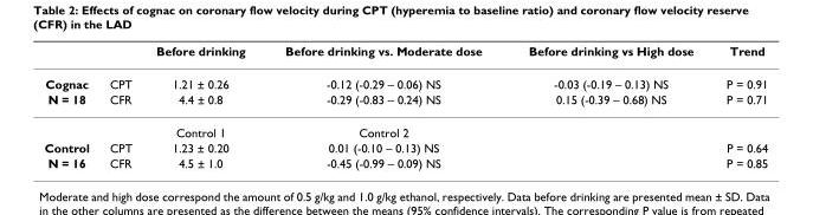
<table><thead><tr><td></td><td></td><td>Before drinking</td><td>Before drinking vs. Moderate dose</td><td>Before drinking vs High dose</td><td>Trend</td></tr></thead><tbody><tr><td>Cognac</td><td>CPT</td><td>1.21 ± 0.26</td><td>-0.12 (-0.29 – 0.06) NS</td><td>-0.03 (-0.19 – 0.13) NS</td><td>P = 0.91</td></tr><tr><td rowspan="2">N = 18</td><td>CFR</td><td>4.4 ± 0.8</td><td>-0.29 (-0.83 – 0.24) NS</td><td>0.15 (-0.39 – 0.68) NS</td><td>P = 0.71</td></tr><tr><td></td><td>Control 1</td><td>Control 2</td><td></td><td></td></tr><tr><td>Control</td><td>CPT</td><td>1.23 ± 0.20</td><td>0.01 (-0.10 – 0.13) NS</td><td></td><td>P = 0.64</td></tr><tr><td>N = 16</td><td>CFR</td><td>4.5 ± 1.0</td><td>-0.45 (-0.99 – 0.09) NS</td><td></td><td>P = 0.85</td></tr></tbody></table>